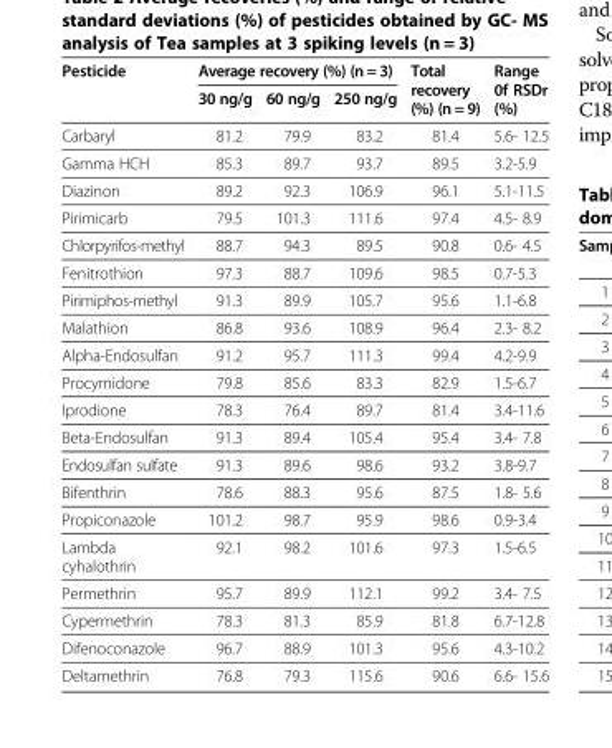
<table><thead><tr><td rowspan="2">Pesticide</td><td colspan="3">Average recovery (%) (n = 3)</td><td rowspan="2">Total recovery (%) (n = 9)</td><td rowspan="2">Range 0f RSDr (%)</td></tr><tr><td>30 ng/g</td><td>60 ng/g</td><td>250 ng/g</td></tr></thead><tbody><tr><td>Carbaryl</td><td>81.2</td><td>79.9</td><td>83.2</td><td>81.4</td><td>5.6- 12.5</td></tr><tr><td>Gamma HCH</td><td>85.3</td><td>89.7</td><td>93.7</td><td>89.5</td><td>3.2-5.9</td></tr><tr><td>Diazinon</td><td>89.2</td><td>92.3</td><td>106.9</td><td>96.1</td><td>5.1-11.5</td></tr><tr><td>Pirimicarb</td><td>79.5</td><td>101.3</td><td>111.6</td><td>97.4</td><td>4.5- 8.9</td></tr><tr><td>Chlorpyrifos-methyl</td><td>88.7</td><td>94.3</td><td>89.5</td><td>90.8</td><td>0.6- 4.5</td></tr><tr><td>Fenitrothion</td><td>97.3</td><td>88.7</td><td>109.6</td><td>98.5</td><td>0.7-5.3</td></tr><tr><td>Pirimiphos-methyl</td><td>91.3</td><td>89.9</td><td>105.7</td><td>95.6</td><td>1.1-6.8</td></tr><tr><td>Malathion</td><td>86.8</td><td>93.6</td><td>108.9</td><td>96.4</td><td>2.3- 8.2</td></tr><tr><td>Alpha-Endosulfan</td><td>91.2</td><td>95.7</td><td>111.3</td><td>99.4</td><td>4.2-9.9</td></tr><tr><td>Procymidone</td><td>79.8</td><td>85.6</td><td>83.3</td><td>82.9</td><td>1.5-6.7</td></tr><tr><td>Iprodione</td><td>78.3</td><td>76.4</td><td>89.7</td><td>81.4</td><td>3.4-11.6</td></tr><tr><td>Beta-Endosulfan</td><td>91.3</td><td>89.4</td><td>105.4</td><td>95.4</td><td>3.4- 7.8</td></tr><tr><td>Endosulfan sulfate</td><td>91.3</td><td>89.6</td><td>98.6</td><td>93.2</td><td>3.8-9.7</td></tr><tr><td>Bifenthrin</td><td>78.6</td><td>88.3</td><td>95.6</td><td>87.5</td><td>1.8- 5.6</td></tr><tr><td>Propiconazole</td><td>101.2</td><td>98.7</td><td>95.9</td><td>98.6</td><td>0.9-3.4</td></tr><tr><td>Lambda cyhalothrin</td><td>92.1</td><td>98.2</td><td>101.6</td><td>97.3</td><td>1.5-6.5</td></tr><tr><td>Permethrin</td><td>95.7</td><td>89.9</td><td>112.1</td><td>99.2</td><td>3.4- 7.5</td></tr><tr><td>Cypermethrin</td><td>78.3</td><td>81.3</td><td>85.9</td><td>81.8</td><td>6.7-12.8</td></tr><tr><td>Difenoconazole</td><td>96.7</td><td>88.9</td><td>101.3</td><td>95.6</td><td>4.3-10.2</td></tr><tr><td>Deltamethrin</td><td>76.8</td><td>79.3</td><td>115.6</td><td>90.6</td><td>6.6- 15.6</td></tr></tbody></table>